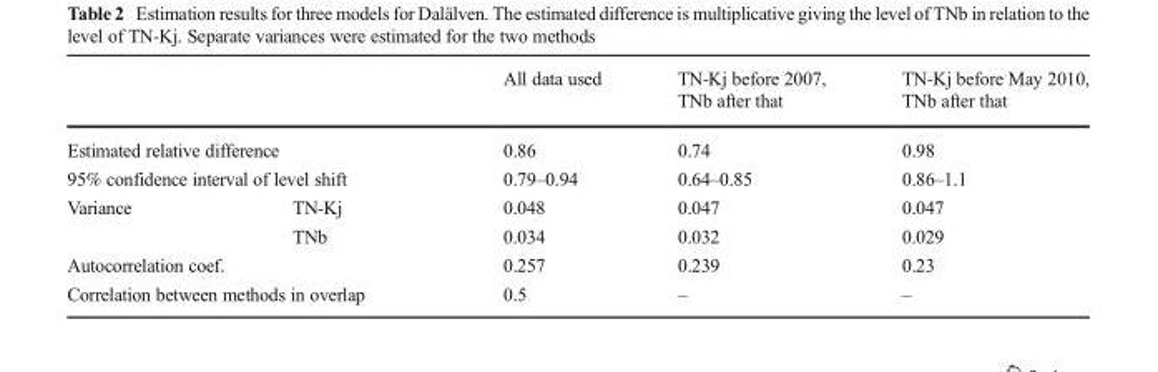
<table><thead><tr><td></td><td></td><td>All data used</td><td>TN-Kj before 2007, TNb after that</td><td>TN-Kj before May 2010, TNb after that</td></tr></thead><tbody><tr><td colspan="2">Estimated relative difference</td><td>0.86</td><td>0.74</td><td>0.98</td></tr><tr><td colspan="2">95% confidence interval of level shift</td><td>0.79–0.94</td><td>0.64–0.85</td><td>0.86–1.1</td></tr><tr><td rowspan="2">Variance</td><td>TN-Kj</td><td>0.048</td><td>0.047</td><td>0.047</td></tr><tr><td>TNb</td><td>0.034</td><td>0.032</td><td>0.029</td></tr><tr><td colspan="2">Autocorrelation coef.</td><td>0.257</td><td>0.239</td><td>0.23</td></tr><tr><td colspan="2">Correlation between methods in overlap</td><td>0.5</td><td>–</td><td>–</td></tr></tbody></table>